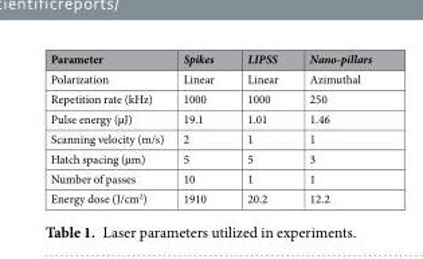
<table><thead><tr><td>Parameter</td><td>Spikes</td><td>LIPSS</td><td>Nano-pillars</td></tr></thead><tbody><tr><td>Polarization</td><td>Linear</td><td>Linear</td><td>Azimuthal</td></tr><tr><td>Repetition rate (kHz)</td><td>1000</td><td>1000</td><td>250</td></tr><tr><td>Pulse energy (µJ)</td><td>19.1</td><td>1.01</td><td>1.46</td></tr><tr><td>Scanning velocity (m/s)</td><td>2</td><td>1</td><td>1</td></tr><tr><td>Hatch spacing (µm)</td><td>5</td><td>5</td><td>3</td></tr><tr><td>Number of passes</td><td>10</td><td>1</td><td>1</td></tr><tr><td>Energy dose (J/cm<sup>2</sup>)</td><td>1910</td><td>20.2</td><td>12.2</td></tr></tbody></table>